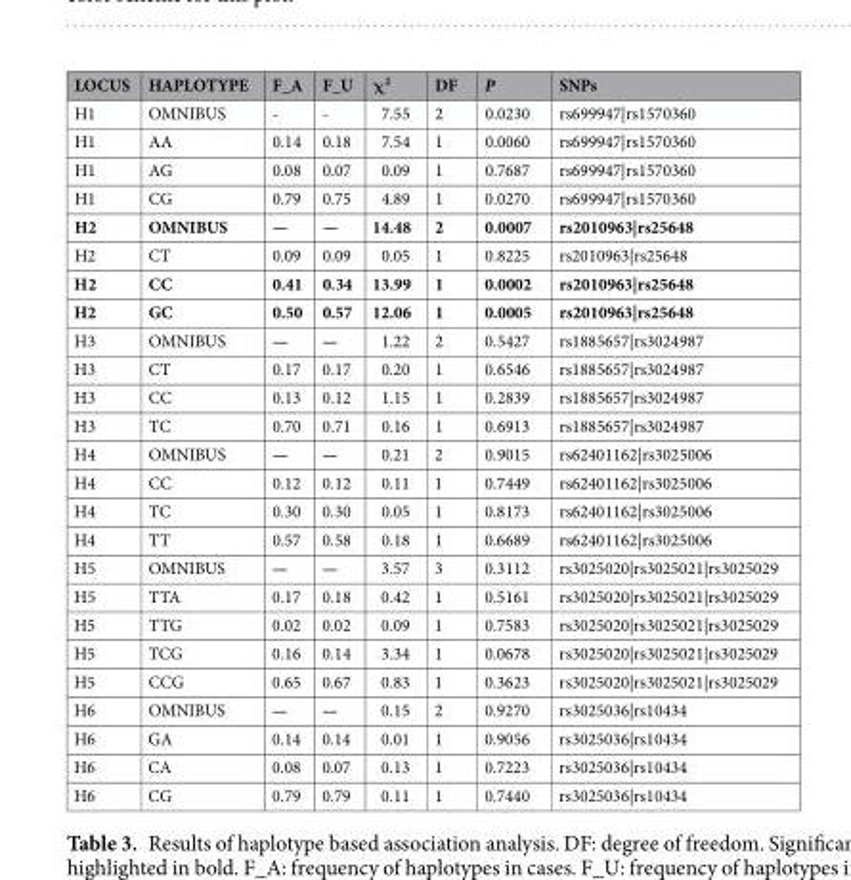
<table><thead><tr><td>LOCUS</td><td>HAPLOTYPE</td><td>F_A</td><td>F_U</td><td>χ<sup>2</sup></td><td>DF</td><td>P</td><td>SNPs</td></tr></thead><tbody><tr><td>H1</td><td>OMNIBUS</td><td>-</td><td>-</td><td>7.55</td><td>2</td><td>0.0230</td><td>rs699947|rs1570360</td></tr><tr><td>H1</td><td>AA</td><td>0.14</td><td>0.18</td><td>7.54</td><td>1</td><td>0.0060</td><td>rs699947|rs1570360</td></tr><tr><td>H1</td><td>AG</td><td>0.08</td><td>0.07</td><td>0.09</td><td>1</td><td>0.7687</td><td>rs699947|rs1570360</td></tr><tr><td>H1</td><td>CG</td><td>0.79</td><td>0.75</td><td>4.89</td><td>1</td><td>0.0270</td><td>rs699947|rs1570360</td></tr><tr><td>H2</td><td>OMNIBUS</td><td>—</td><td>—</td><td>14.48</td><td>2</td><td>0.0007</td><td>rs2010963|rs25648</td></tr><tr><td>H2</td><td>CT</td><td>0.09</td><td>0.09</td><td>0.05</td><td>1</td><td>0.8225</td><td>rs2010963|rs25648</td></tr><tr><td>H2</td><td>CC</td><td>0.41</td><td>0.34</td><td>13.99</td><td>1</td><td>0.0002</td><td>rs2010963|rs25648</td></tr><tr><td>H2</td><td>GC</td><td>0.50</td><td>0.57</td><td>12.06</td><td>1</td><td>0.0005</td><td>rs2010963|rs25648</td></tr><tr><td>H3</td><td>OMNIBUS</td><td>—</td><td>—</td><td>1.22</td><td>2</td><td>0.5427</td><td>rs1885657|rs3024987</td></tr><tr><td>H3</td><td>CT</td><td>0.17</td><td>0.17</td><td>0.20</td><td>1</td><td>0.6546</td><td>rs1885657|rs3024987</td></tr><tr><td>H3</td><td>CC</td><td>0.13</td><td>0.12</td><td>1.15</td><td>1</td><td>0.2839</td><td>rs1885657|rs3024987</td></tr><tr><td>H3</td><td>TC</td><td>0.70</td><td>0.71</td><td>0.16</td><td>1</td><td>0.6913</td><td>rs1885657|rs3024987</td></tr><tr><td>H4</td><td>OMNIBUS</td><td>—</td><td>—</td><td>0.21</td><td>2</td><td>0.9015</td><td>rs62401162|rs3025006</td></tr><tr><td>H4</td><td>CC</td><td>0.12</td><td>0.12</td><td>0.11</td><td>1</td><td>0.7449</td><td>rs62401162|rs3025006</td></tr><tr><td>H4</td><td>TC</td><td>0.30</td><td>0.30</td><td>0.05</td><td>1</td><td>0.8173</td><td>rs62401162|rs3025006</td></tr><tr><td>H4</td><td>TT</td><td>0.57</td><td>0.58</td><td>0.18</td><td>1</td><td>0.6689</td><td>rs62401162|rs3025006</td></tr><tr><td>H5</td><td>OMNIBUS</td><td>—</td><td>—</td><td>3.57</td><td>3</td><td>0.3112</td><td>rs3025020|rs3025021|rs3025029</td></tr><tr><td>H5</td><td>TTA</td><td>0.17</td><td>0.18</td><td>0.42</td><td>1</td><td>0.5161</td><td>rs3025020|rs3025021|rs3025029</td></tr><tr><td>H5</td><td>TTG</td><td>0.02</td><td>0.02</td><td>0.09</td><td>1</td><td>0.7583</td><td>rs3025020|rs3025021|rs3025029</td></tr><tr><td>H5</td><td>TCG</td><td>0.16</td><td>0.14</td><td>3.34</td><td>1</td><td>0.0678</td><td>rs3025020|rs3025021|rs3025029</td></tr><tr><td>H5</td><td>CCG</td><td>0.65</td><td>0.67</td><td>0.83</td><td>1</td><td>0.3623</td><td>rs3025020|rs3025021|rs3025029</td></tr><tr><td>H6</td><td>OMNIBUS</td><td>—</td><td>—</td><td>0.15</td><td>2</td><td>0.9270</td><td>rs3025036|rs10434</td></tr><tr><td>H6</td><td>GA</td><td>0.14</td><td>0.14</td><td>0.01</td><td>1</td><td>0.9056</td><td>rs3025036|rs10434</td></tr><tr><td>H6</td><td>CA</td><td>0.08</td><td>0.07</td><td>0.13</td><td>1</td><td>0.7223</td><td>rs3025036|rs10434</td></tr><tr><td>H6</td><td>CG</td><td>0.79</td><td>0.79</td><td>0.11</td><td>1</td><td>0.7440</td><td>rs3025036|rs10434</td></tr></tbody></table>